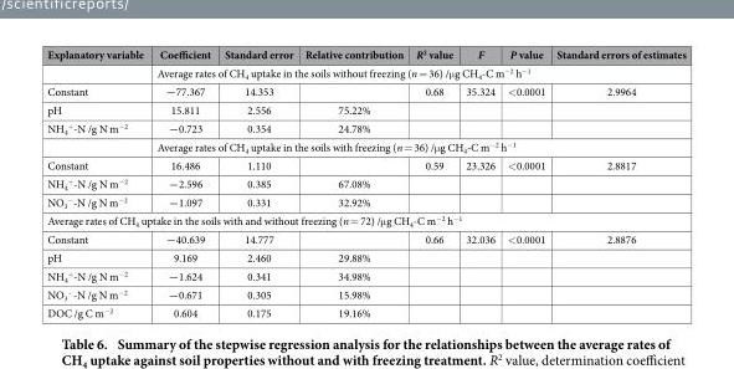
<table><thead><tr><td>Explanatory variable</td><td>Coefficient</td><td>Standard error</td><td>Relative contribution</td><td>R<sup>2</sup> value</td><td>F</td><td>P value</td><td>Standard errors of estimates</td></tr></thead><tbody><tr><td></td><td colspan="7">Average rates of CH<sub>4</sub> uptake in the soils without freezing (n = 36) /μ g CH<sub>4</sub>-C m<sup>−2</sup> h<sup>−1</sup></td></tr><tr><td>Constant</td><td>−77.367</td><td>14.353</td><td></td><td>0.68</td><td>35.324</td><td>&lt; 0.0001</td><td>2.9964</td></tr><tr><td>pH</td><td>15.811</td><td>2.556</td><td>75.22%</td><td></td><td></td><td></td><td></td></tr><tr><td rowspan="2">NH<sub>4</sub> <sup>+</sup>-N /g N m<sup>−2</sup></td><td>−0.723</td><td>0.354</td><td>24.78%</td><td></td><td></td><td></td><td></td></tr><tr><td colspan="7">Average rates of CH<sub>4</sub> uptake in the soils with freezing (n = 36) /μ g CH<sub>4</sub>-C m<sup>−2</sup> h<sup>−1</sup></td></tr><tr><td>Constant</td><td>16.486</td><td>1.110</td><td></td><td>0.59</td><td>23.326</td><td>&lt; 0.0001</td><td>2.8817</td></tr><tr><td>NH<sub>4</sub> <sup>+</sup>-N /g N m<sup>−2</sup></td><td>−2.596</td><td>0.385</td><td>67.08%</td><td></td><td></td><td></td><td></td></tr><tr><td>NO<sub>3</sub> <sup>−</sup>-N /g N m<sup>−2</sup></td><td>−1.097</td><td>0.331</td><td>32.92%</td><td></td><td></td><td></td><td></td></tr><tr><td colspan="8">Average rates of CH<sub>4</sub> uptake in the soils with and without freezing (n = 72) /μ g CH<sub>4</sub>-C m<sup>−2</sup> h<sup>−1</sup></td></tr><tr><td>Constant</td><td>−40.639</td><td>14.777</td><td></td><td>0.66</td><td>32.036</td><td>&lt; 0.0001</td><td>2.8876</td></tr><tr><td>pH</td><td>9.169</td><td>2.460</td><td>29.88%</td><td></td><td></td><td></td><td></td></tr><tr><td>NH<sub>4</sub> <sup>+</sup>-N /g N m<sup>−2</sup></td><td>−1.624</td><td>0.341</td><td>34.98%</td><td></td><td></td><td></td><td></td></tr><tr><td>NO<sub>3</sub> <sup>−</sup>-N /g N m<sup>−2</sup></td><td>−0.671</td><td>0.305</td><td>15.98%</td><td></td><td></td><td></td><td></td></tr><tr><td>DOC /g C m<sup>−2</sup></td><td>0.604</td><td>0.175</td><td>19.16%</td><td></td><td></td><td></td><td></td></tr></tbody></table>